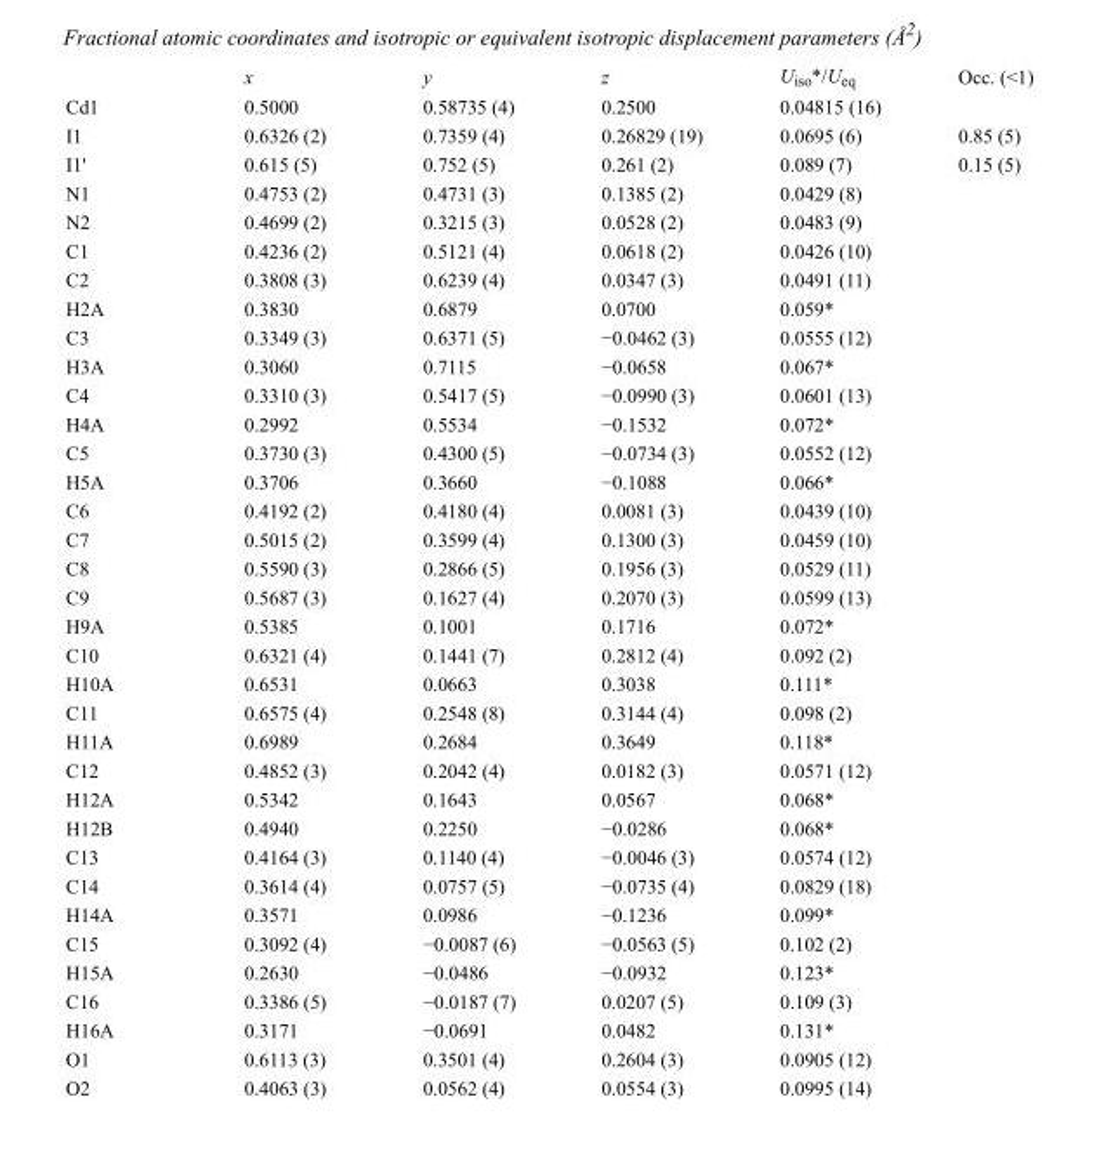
<table><thead><tr><td></td><td>x</td><td>y</td><td>z</td><td>U<sub>iso</sub>*/U<sub>eq</sub></td><td>Occ. (&lt;1)</td></tr></thead><tbody><tr><td>Cd1</td><td>0.5000</td><td>0.58735 (4)</td><td>0.2500</td><td>0.04815 (16)</td><td></td></tr><tr><td>I1</td><td>0.6326 (2)</td><td>0.7359 (4)</td><td>0.26829 (19)</td><td>0.0695 (6)</td><td>0.85 (5)</td></tr><tr><td>I1&#x27;</td><td>0.615 (5)</td><td>0.752 (5)</td><td>0.261 (2)</td><td>0.089 (7)</td><td>0.15 (5)</td></tr><tr><td>N1</td><td>0.4753 (2)</td><td>0.4731 (3)</td><td>0.1385 (2)</td><td>0.0429 (8)</td><td></td></tr><tr><td>N2</td><td>0.4699 (2)</td><td>0.3215 (3)</td><td>0.0528 (2)</td><td>0.0483 (9)</td><td></td></tr><tr><td>C1</td><td>0.4236 (2)</td><td>0.5121 (4)</td><td>0.0618 (2)</td><td>0.0426 (10)</td><td></td></tr><tr><td>C2</td><td>0.3808 (3)</td><td>0.6239 (4)</td><td>0.0347 (3)</td><td>0.0491 (11)</td><td></td></tr><tr><td>H2A</td><td>0.3830</td><td>0.6879</td><td>0.0700</td><td>0.059*</td><td></td></tr><tr><td>C3</td><td>0.3349 (3)</td><td>0.6371 (5)</td><td>−0.0462 (3)</td><td>0.0555 (12)</td><td></td></tr><tr><td>H3A</td><td>0.3060</td><td>0.7115</td><td>−0.0658</td><td>0.067*</td><td></td></tr><tr><td>C4</td><td>0.3310 (3)</td><td>0.5417 (5)</td><td>−0.0990 (3)</td><td>0.0601 (13)</td><td></td></tr><tr><td>H4A</td><td>0.2992</td><td>0.5534</td><td>−0.1532</td><td>0.072*</td><td></td></tr><tr><td>C5</td><td>0.3730 (3)</td><td>0.4300 (5)</td><td>−0.0734 (3)</td><td>0.0552 (12)</td><td></td></tr><tr><td>H5A</td><td>0.3706</td><td>0.3660</td><td>−0.1088</td><td>0.066*</td><td></td></tr><tr><td>C6</td><td>0.4192 (2)</td><td>0.4180 (4)</td><td>0.0081 (3)</td><td>0.0439 (10)</td><td></td></tr><tr><td>C7</td><td>0.5015 (2)</td><td>0.3599 (4)</td><td>0.1300 (3)</td><td>0.0459 (10)</td><td></td></tr><tr><td>C8</td><td>0.5590 (3)</td><td>0.2866 (5)</td><td>0.1956 (3)</td><td>0.0529 (11)</td><td></td></tr><tr><td>C9</td><td>0.5687 (3)</td><td>0.1627 (4)</td><td>0.2070 (3)</td><td>0.0599 (13)</td><td></td></tr><tr><td>H9A</td><td>0.5385</td><td>0.1001</td><td>0.1716</td><td>0.072*</td><td></td></tr><tr><td>C10</td><td>0.6321 (4)</td><td>0.1441 (7)</td><td>0.2812 (4)</td><td>0.092 (2)</td><td></td></tr><tr><td>H10A</td><td>0.6531</td><td>0.0663</td><td>0.3038</td><td>0.111*</td><td></td></tr><tr><td>C11</td><td>0.6575 (4)</td><td>0.2548 (8)</td><td>0.3144 (4)</td><td>0.098 (2)</td><td></td></tr><tr><td>H11A</td><td>0.6989</td><td>0.2684</td><td>0.3649</td><td>0.118*</td><td></td></tr><tr><td>C12</td><td>0.4852 (3)</td><td>0.2042 (4)</td><td>0.0182 (3)</td><td>0.0571 (12)</td><td></td></tr><tr><td>H12A</td><td>0.5342</td><td>0.1643</td><td>0.0567</td><td>0.068*</td><td></td></tr><tr><td>H12B</td><td>0.4940</td><td>0.2250</td><td>−0.0286</td><td>0.068*</td><td></td></tr><tr><td>C13</td><td>0.4164 (3)</td><td>0.1140 (4)</td><td>−0.0046 (3)</td><td>0.0574 (12)</td><td></td></tr><tr><td>C14</td><td>0.3614 (4)</td><td>0.0757 (5)</td><td>−0.0735 (4)</td><td>0.0829 (18)</td><td></td></tr><tr><td>H14A</td><td>0.3571</td><td>0.0986</td><td>−0.1236</td><td>0.099*</td><td></td></tr><tr><td>C15</td><td>0.3092 (4)</td><td>−0.0087 (6)</td><td>−0.0563 (5)</td><td>0.102 (2)</td><td></td></tr><tr><td>H15A</td><td>0.2630</td><td>−0.0486</td><td>−0.0932</td><td>0.123*</td><td></td></tr><tr><td>C16</td><td>0.3386 (5)</td><td>−0.0187 (7)</td><td>0.0207 (5)</td><td>0.109 (3)</td><td></td></tr><tr><td>H16A</td><td>0.3171</td><td>−0.0691</td><td>0.0482</td><td>0.131*</td><td></td></tr><tr><td>O1</td><td>0.6113 (3)</td><td>0.3501 (4)</td><td>0.2604 (3)</td><td>0.0905 (12)</td><td></td></tr><tr><td>O2</td><td>0.4063 (3)</td><td>0.0562 (4)</td><td>0.0554 (3)</td><td>0.0995 (14)</td><td></td></tr></tbody></table>